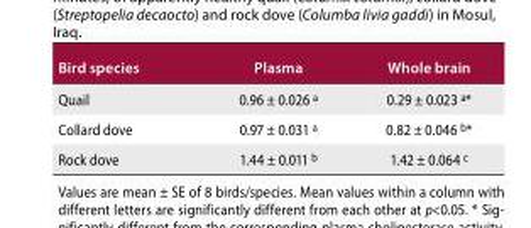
<table><thead><tr><td>Bird species</td><td>Plasma</td><td>Whole brain</td></tr></thead><tbody><tr><td>Quail</td><td>0.96 ± 0.026 <sup>a</sup></td><td>0.29 ± 0.023 <sup>a</sup>*</td></tr><tr><td>Collard dove</td><td>0.97 ± 0.031 <sup>a</sup></td><td>0.82 ± 0.046 <sup>b</sup>*</td></tr><tr><td>Rock dove</td><td>1.44 ± 0.011 <sup>b</sup></td><td>1.42 ± 0.064 <sup>c</sup></td></tr></tbody></table>